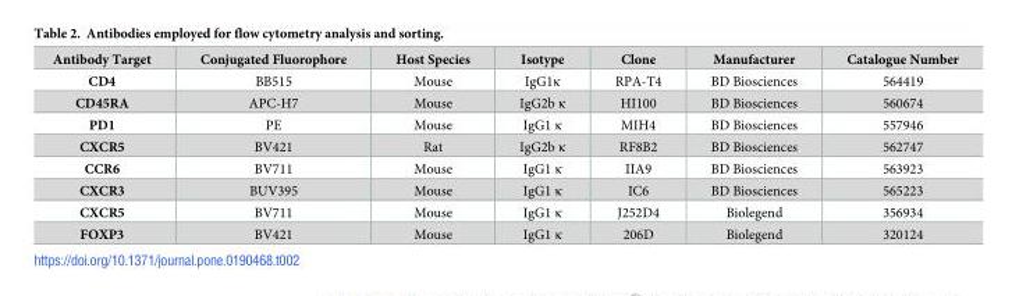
<table><thead><tr><td>Antibody Target</td><td>Conjugated Fluorophore</td><td>Host Species</td><td>Isotype</td><td>Clone</td><td>Manufacturer</td><td>Catalogue Number</td></tr></thead><tbody><tr><td>CD4</td><td>BB515</td><td>Mouse</td><td>IgG1κ</td><td>RPA-T4</td><td>BD Biosciences</td><td>564419</td></tr><tr><td>CD45RA</td><td>APC-H7</td><td>Mouse</td><td>IgG2b κ</td><td>HI100</td><td>BD Biosciences</td><td>560674</td></tr><tr><td>PD1</td><td>PE</td><td>Mouse</td><td>IgG1 κ</td><td>MIH4</td><td>BD Biosciences</td><td>557946</td></tr><tr><td>CXCR5</td><td>BV421</td><td>Rat</td><td>IgG2b κ</td><td>RF8B2</td><td>BD Biosciences</td><td>562747</td></tr><tr><td>CCR6</td><td>BV711</td><td>Mouse</td><td>IgG1 κ</td><td>IIA9</td><td>BD Biosciences</td><td>563923</td></tr><tr><td>CXCR3</td><td>BUV395</td><td>Mouse</td><td>IgG1 κ</td><td>IC6</td><td>BD Biosciences</td><td>565223</td></tr><tr><td>CXCR5</td><td>BV711</td><td>Mouse</td><td>IgG1 κ</td><td>J252D4</td><td>Biolegend</td><td>356934</td></tr><tr><td>FOXP3</td><td>BV421</td><td>Mouse</td><td>IgG1 κ</td><td>206D</td><td>Biolegend</td><td>320124</td></tr></tbody></table>